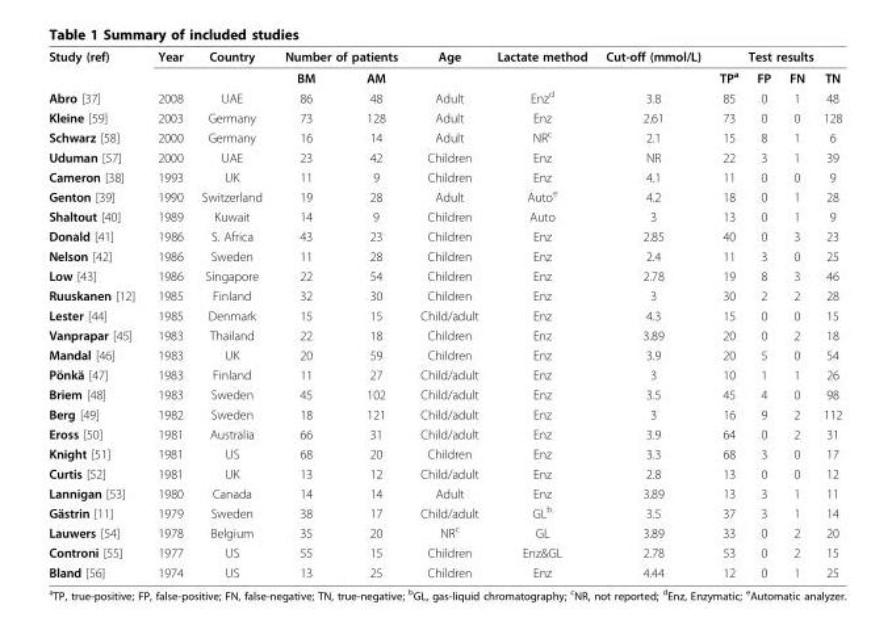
<table><tbody><tr><td rowspan="2">Study (ref)</td><td>Year</td><td>Country</td><td colspan="2">Number of patients</td><td>Age</td><td>Lactate method</td><td>Cut-off (mmol/L)</td><td colspan="4">Test results</td></tr><tr><td></td><td></td><td>BM</td><td>AM</td><td></td><td></td><td></td><td>TP<sup>a</sup></td><td>FP</td><td>FN</td><td>TN</td></tr><tr><td>Abro [37]</td><td>2008</td><td>UAE</td><td>86</td><td>48</td><td>Adult</td><td>Enz<sup>d</sup></td><td>3.8</td><td>85</td><td>0</td><td>1</td><td>48</td></tr><tr><td>Kleine [59]</td><td>2003</td><td>Germany</td><td>73</td><td>128</td><td>Adult</td><td>Enz</td><td>2.61</td><td>73</td><td>0</td><td>0</td><td>128</td></tr><tr><td>Schwarz [58]</td><td>2000</td><td>Germany</td><td>16</td><td>14</td><td>Adult</td><td>NR<sup>c</sup></td><td>2.1</td><td>15</td><td>8</td><td>1</td><td>6</td></tr><tr><td>Uduman [57]</td><td>2000</td><td>UAE</td><td>23</td><td>42</td><td>Children</td><td>Enz</td><td>NR</td><td>22</td><td>3</td><td>1</td><td>39</td></tr><tr><td>Cameron [38]</td><td>1993</td><td>UK</td><td>11</td><td>9</td><td>Children</td><td>Enz</td><td>4.1</td><td>11</td><td>0</td><td>0</td><td>9</td></tr><tr><td>Genton [39]</td><td>1990</td><td>Switzerland</td><td>19</td><td>28</td><td>Adult</td><td>Auto<sup>e</sup></td><td>4.2</td><td>18</td><td>0</td><td>1</td><td>28</td></tr><tr><td>Shaltout [40]</td><td>1989</td><td>Kuwait</td><td>14</td><td>9</td><td>Children</td><td>Auto</td><td>3</td><td>13</td><td>0</td><td>1</td><td>9</td></tr><tr><td>Donald [41]</td><td>1986</td><td>S. Africa</td><td>43</td><td>23</td><td>Children</td><td>Enz</td><td>2.85</td><td>40</td><td>0</td><td>3</td><td>23</td></tr><tr><td>Nelson [42]</td><td>1986</td><td>Sweden</td><td>11</td><td>28</td><td>Children</td><td>Enz</td><td>2.4</td><td>11</td><td>3</td><td>0</td><td>25</td></tr><tr><td>Low [43]</td><td>1986</td><td>Singapore</td><td>22</td><td>54</td><td>Children</td><td>Enz</td><td>2.78</td><td>19</td><td>8</td><td>3</td><td>46</td></tr><tr><td>Ruuskanen [12]</td><td>1985</td><td>Finland</td><td>32</td><td>30</td><td>Children</td><td>Enz</td><td>3</td><td>30</td><td>2</td><td>2</td><td>28</td></tr><tr><td>Lester [44]</td><td>1985</td><td>Denmark</td><td>15</td><td>15</td><td>Child/adult</td><td>Enz</td><td>4.3</td><td>15</td><td>0</td><td>0</td><td>15</td></tr><tr><td>Vanprapar [45]</td><td>1983</td><td>Thailand</td><td>22</td><td>18</td><td>Children</td><td>Enz</td><td>3.89</td><td>20</td><td>0</td><td>2</td><td>18</td></tr><tr><td>Mandal [46]</td><td>1983</td><td>UK</td><td>20</td><td>59</td><td>Children</td><td>Enz</td><td>3.9</td><td>20</td><td>5</td><td>0</td><td>54</td></tr><tr><td>Pönkä [47]</td><td>1983</td><td>Finland</td><td>11</td><td>27</td><td>Child/adult</td><td>Enz</td><td>3</td><td>10</td><td>1</td><td>1</td><td>26</td></tr><tr><td>Briem [48]</td><td>1983</td><td>Sweden</td><td>45</td><td>102</td><td>Child/adult</td><td>Enz</td><td>3.5</td><td>45</td><td>4</td><td>0</td><td>98</td></tr><tr><td>Berg [49]</td><td>1982</td><td>Sweden</td><td>18</td><td>121</td><td>Child/adult</td><td>Enz</td><td>3</td><td>16</td><td>9</td><td>2</td><td>112</td></tr><tr><td>Eross [50]</td><td>1981</td><td>Australia</td><td>66</td><td>31</td><td>Child/adult</td><td>Enz</td><td>3.9</td><td>64</td><td>0</td><td>2</td><td>31</td></tr><tr><td>Knight [51]</td><td>1981</td><td>US</td><td>68</td><td>20</td><td>Children</td><td>Enz</td><td>3.3</td><td>68</td><td>3</td><td>0</td><td>17</td></tr><tr><td>Curtis [52]</td><td>1981</td><td>UK</td><td>13</td><td>12</td><td>Child/adult</td><td>Enz</td><td>2.8</td><td>13</td><td>0</td><td>0</td><td>12</td></tr><tr><td>Lannigan [53]</td><td>1980</td><td>Canada</td><td>14</td><td>14</td><td>Adult</td><td>Enz</td><td>3.89</td><td>13</td><td>3</td><td>1</td><td>11</td></tr><tr><td>Gästrin [11]</td><td>1979</td><td>Sweden</td><td>38</td><td>17</td><td>Child/adult</td><td>GL<sup>b</sup></td><td>3.5</td><td>37</td><td>3</td><td>1</td><td>14</td></tr><tr><td>Lauwers [54]</td><td>1978</td><td>Belgium</td><td>35</td><td>20</td><td>NR<sup>c</sup></td><td>GL</td><td>3.89</td><td>33</td><td>0</td><td>2</td><td>20</td></tr><tr><td>Controni [55]</td><td>1977</td><td>US</td><td>55</td><td>15</td><td>Children</td><td>Enz&amp;GL</td><td>2.78</td><td>53</td><td>0</td><td>2</td><td>15</td></tr><tr><td>Bland [56]</td><td>1974</td><td>US</td><td>13</td><td>25</td><td>Children</td><td>Enz</td><td>4.44</td><td>12</td><td>0</td><td>1</td><td>25</td></tr></tbody></table>